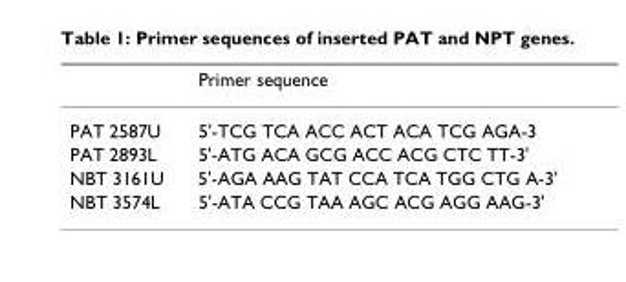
<table><thead><tr><td></td><td>Primer sequence</td></tr></thead><tbody><tr><td>PAT 2587U</td><td>5&#x27;-TCG TCA ACC ACT ACA TCG AGA-3</td></tr><tr><td>PAT 2893L</td><td>5&#x27;-ATG ACA GCG ACC ACG CTC TT-3&#x27;</td></tr><tr><td>NBT 3161U</td><td>5&#x27;-AGA AAG TAT CCA TCA TGG CTG A-3&#x27;</td></tr><tr><td>NBT 3574L</td><td>5&#x27;-ATA CCG TAA AGC ACG AGG AAG-3&#x27;</td></tr></tbody></table>